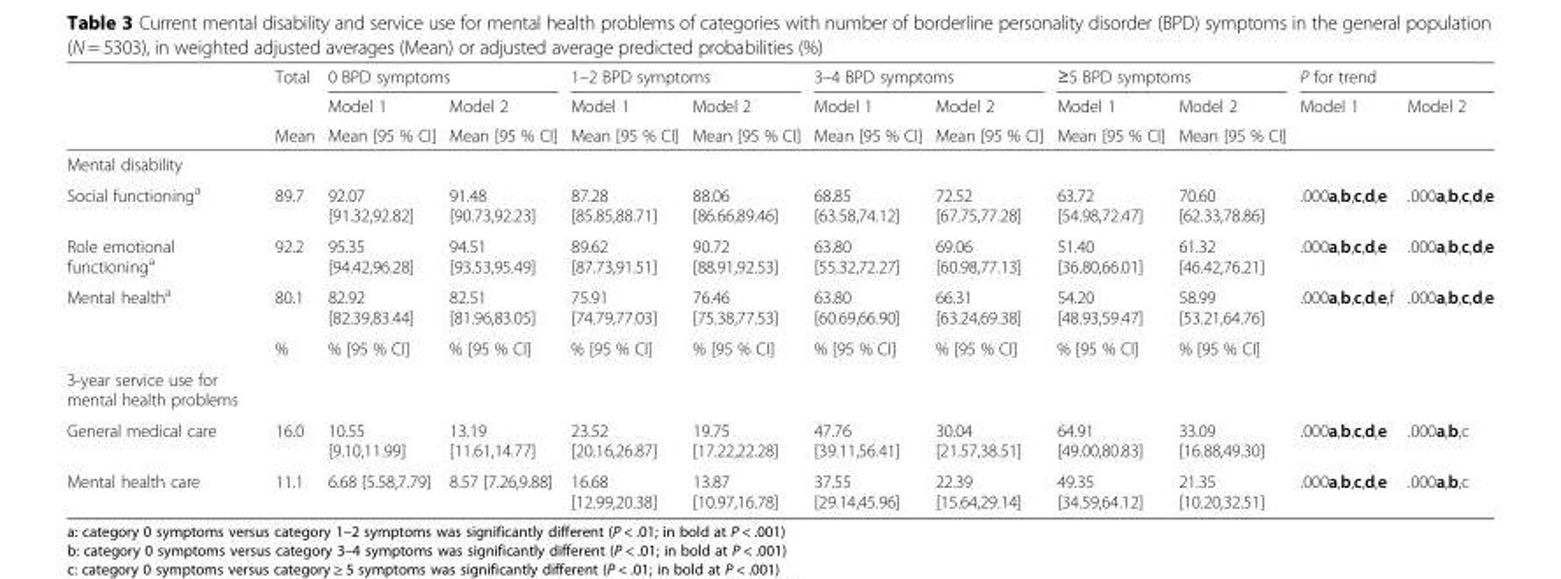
<table><thead><tr><td rowspan="3"></td><td rowspan="3">Total Mean</td><td colspan="2">0 BPD symptoms</td><td colspan="2">1–2 BPD symptoms</td><td colspan="2">3–4 BPD symptoms</td><td colspan="2">≥5 BPD symptoms</td><td colspan="2">P for trend</td></tr><tr><td rowspan="2">Model 1 Mean [95 % CI]</td><td rowspan="2">Model 2 Mean [95 % CI]</td><td rowspan="2">Model 1 Mean [95 % CI]</td><td rowspan="2">Model 2 Mean [95 % CI]</td><td rowspan="2">Model 1 Mean [95 % CI]</td><td rowspan="2">Model 2 Mean [95 % CI]</td><td rowspan="2">Model 1 Mean [95 % CI]</td><td rowspan="2">Model 2 Mean [95 % CI]</td><td rowspan="2">Model 1</td><td rowspan="2">Model 2</td></tr><tr></tr></thead><tbody><tr><td colspan="12">Mental disability</td></tr><tr><td>Social functioning<sup>a</sup></td><td>89.7</td><td>92.07 [91.32,92.82]</td><td>91.48 [90.73,92.23]</td><td>87.28 [85.85,88.71]</td><td>88.06 [86.66,89.46]</td><td>68.85 [63.58,74.12]</td><td>72.52 [67.75,77.28]</td><td>63.72 [54.98,72.47]</td><td>70.60 [62.33,78.86]</td><td>.000a,b,c,d,e</td><td>.000a,b,c,d,e</td></tr><tr><td>Role emotional functioning<sup>a</sup></td><td>92.2</td><td>95.35 [94.42,96.28]</td><td>94.51 [93.53,95.49]</td><td>89.62 [87.73,91.51]</td><td>90.72 [88.91,92.53]</td><td>63.80 [55.32,72.27]</td><td>69.06 [60.98,77.13]</td><td>51.40 [36.80,66.01]</td><td>61.32 [46.42,76.21]</td><td>.000a,b,c,d,e</td><td>.000a,b,c,d,e</td></tr><tr><td rowspan="2">Mental health<sup>a</sup></td><td>80.1</td><td>82.92 [82.39,83.44]</td><td>82.51 [81.96,83.05]</td><td>75.91 [74.79,77.03]</td><td>76.46 [75.38,77.53]</td><td>63.80 [60.69,66.90]</td><td>66.31 [63.24,69.38]</td><td>54.20 [48.93,59.47]</td><td>58.99 [53.21,64.76]</td><td>.000a,b,c,d,e,f</td><td>.000a,b,c,d,e</td></tr><tr><td>%</td><td>% [95 % CI]</td><td>% [95 % CI]</td><td>% [95 % CI]</td><td>% [95 % CI]</td><td>% [95 % CI]</td><td>% [95 % CI]</td><td>% [95 % CI]</td><td>% [95 % CI]</td><td></td><td></td></tr><tr><td colspan="12">3-year service use for mental health problems</td></tr><tr><td>General medical care</td><td>16.0</td><td>10.55 [9.10,11.99]</td><td>13.19 [11.61,14.77]</td><td>23.52 [20.16,26.87]</td><td>19.75 [17.22,22.28]</td><td>47.76 [39.11,56.41]</td><td>30.04 [21.57,38.51]</td><td>64.91 [49.00,80.83]</td><td>33.09 [16.88,49.30]</td><td>.000a,b,c,d,e</td><td>.000a,b,c</td></tr><tr><td>Mental health care</td><td>11.1</td><td>6.68 [5.58,7.79]</td><td>8.57 [7.26,9.88]</td><td>16.68 [12.99,20.38]</td><td>13.87 [10.97,16.78]</td><td>37.55 [29.14,45.96]</td><td>22.39 [15.64,29.14]</td><td>49.35 [34.59,64.12]</td><td>21.35 [10.20,32.51]</td><td>.000a,b,c,d,e</td><td>.000a,b,c</td></tr></tbody></table>